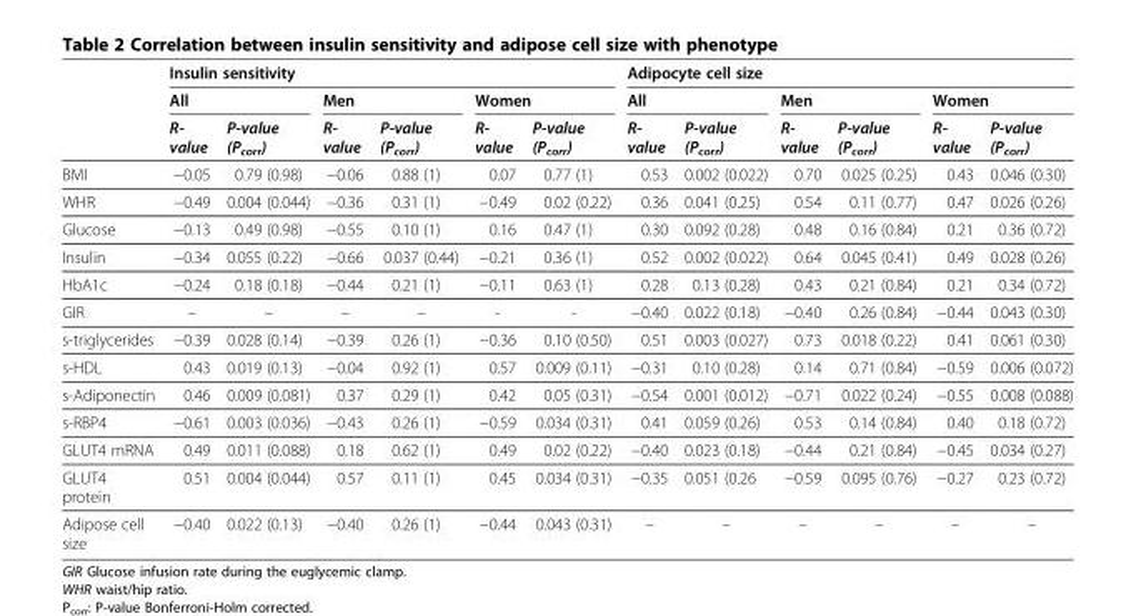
<table><thead><tr><td rowspan="3"></td><td colspan="6">Insulin sensitivity</td><td colspan="6">Adipocyte cell size</td></tr><tr><td colspan="2">All</td><td colspan="2">Men</td><td colspan="2">Women</td><td colspan="2">All</td><td colspan="2">Men</td><td colspan="2">Women</td></tr><tr><td>R- value</td><td>P-value (P<sub>corr</sub>)</td><td>R- value</td><td>P-value (P<sub>corr</sub>)</td><td>R- value</td><td>P-value (P<sub>corr</sub>)</td><td>R- value</td><td>P-value (P<sub>corr</sub>)</td><td>R- value</td><td>P-value (P<sub>corr</sub>)</td><td>R- value</td><td>P-value (P<sub>corr</sub>)</td></tr></thead><tbody><tr><td>BMI</td><td>−0.05</td><td>0.79 (0.98)</td><td>−0.06</td><td>0.88 (1)</td><td>0.07</td><td>0.77 (1)</td><td>0.53</td><td>0.002 (0.022)</td><td>0.70</td><td>0.025 (0.25)</td><td>0.43</td><td>0.046 (0.30)</td></tr><tr><td>WHR</td><td>−0.49</td><td>0.004 (0.044)</td><td>−0.36</td><td>0.31 (1)</td><td>−0.49</td><td>0.02 (0.22)</td><td>0.36</td><td>0.041 (0.25)</td><td>0.54</td><td>0.11 (0.77)</td><td>0.47</td><td>0.026 (0.26)</td></tr><tr><td>Glucose</td><td>−0.13</td><td>0.49 (0.98)</td><td>−0.55</td><td>0.10 (1)</td><td>0.16</td><td>0.47 (1)</td><td>0.30</td><td>0.092 (0.28)</td><td>0.48</td><td>0.16 (0.84)</td><td>0.21</td><td>0.36 (0.72)</td></tr><tr><td>Insulin</td><td>−0.34</td><td>0.055 (0.22)</td><td>−0.66</td><td>0.037 (0.44)</td><td>−0.21</td><td>0.36 (1)</td><td>0.52</td><td>0.002 (0.022)</td><td>0.64</td><td>0.045 (0.41)</td><td>0.49</td><td>0.028 (0.26)</td></tr><tr><td>HbA1c</td><td>−0.24</td><td>0.18 (0.18)</td><td>−0.44</td><td>0.21 (1)</td><td>−0.11</td><td>0.63 (1)</td><td>0.28</td><td>0.13 (0.28)</td><td>0.43</td><td>0.21 (0.84)</td><td>0.21</td><td>0.34 (0.72)</td></tr><tr><td>GIR</td><td>–</td><td>–</td><td>–</td><td>–</td><td>-</td><td>-</td><td>−0.40</td><td>0.022 (0.18)</td><td>−0.40</td><td>0.26 (0.84)</td><td>−0.44</td><td>0.043 (0.30)</td></tr><tr><td>s-triglycerides</td><td>−0.39</td><td>0.028 (0.14)</td><td>−0.39</td><td>0.26 (1)</td><td>−0.36</td><td>0.10 (0.50)</td><td>0.51</td><td>0.003 (0.027)</td><td>0.73</td><td>0.018 (0.22)</td><td>0.41</td><td>0.061 (0.30)</td></tr><tr><td>s-HDL</td><td>0.43</td><td>0.019 (0.13)</td><td>−0.04</td><td>0.92 (1)</td><td>0.57</td><td>0.009 (0.11)</td><td>−0.31</td><td>0.10 (0.28)</td><td>0.14</td><td>0.71 (0.84)</td><td>−0.59</td><td>0.006 (0.072)</td></tr><tr><td>s-Adiponectin</td><td>0.46</td><td>0.009 (0.081)</td><td>0.37</td><td>0.29 (1)</td><td>0.42</td><td>0.05 (0.31)</td><td>−0.54</td><td>0.001 (0.012)</td><td>−0.71</td><td>0.022 (0.24)</td><td>−0.55</td><td>0.008 (0.088)</td></tr><tr><td>s-RBP4</td><td>−0.61</td><td>0.003 (0.036)</td><td>−0.43</td><td>0.26 (1)</td><td>−0.59</td><td>0.034 (0.31)</td><td>0.41</td><td>0.059 (0.26)</td><td>0.53</td><td>0.14 (0.84)</td><td>0.40</td><td>0.18 (0.72)</td></tr><tr><td>GLUT4 mRNA</td><td>0.49</td><td>0.011 (0.088)</td><td>0.18</td><td>0.62 (1)</td><td>0.49</td><td>0.02 (0.22)</td><td>−0.40</td><td>0.023 (0.18)</td><td>−0.44</td><td>0.21 (0.84)</td><td>−0.45</td><td>0.034 (0.27)</td></tr><tr><td>GLUT4 protein</td><td>0.51</td><td>0.004 (0.044)</td><td>0.57</td><td>0.11 (1)</td><td>0.45</td><td>0.034 (0.31)</td><td>−0.35</td><td>0.051 (0.26</td><td>−0.59</td><td>0.095 (0.76)</td><td>−0.27</td><td>0.23 (0.72)</td></tr><tr><td>Adipose cell size</td><td>−0.40</td><td>0.022 (0.13)</td><td>−0.40</td><td>0.26 (1)</td><td>−0.44</td><td>0.043 (0.31)</td><td>–</td><td>–</td><td>–</td><td>–</td><td>–</td><td>–</td></tr></tbody></table>